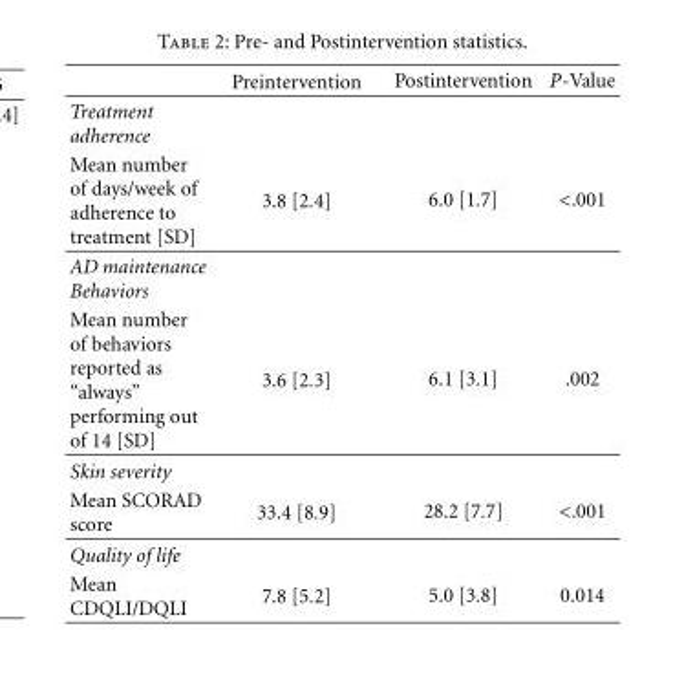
<table><thead><tr><td></td><td>Preintervention</td><td>Postintervention</td><td>P-Value</td></tr></thead><tbody><tr><td colspan="4">Treatment adherence</td></tr><tr><td>Mean number of days/week of adherence to treatment [SD]</td><td>3.8 [2.4]</td><td>6.0 [1.7]</td><td>&lt;.001</td></tr><tr><td colspan="4">AD maintenance Behaviors</td></tr><tr><td>Mean number of behaviors reported as “always” performing out of 14 [SD]</td><td>3.6 [2.3]</td><td>6.1 [3.1]</td><td>.002</td></tr><tr><td colspan="4">Skin severity</td></tr><tr><td>Mean SCORAD score</td><td>33.4 [8.9]</td><td>28.2 [7.7]</td><td>&lt;.001</td></tr><tr><td colspan="4">Quality of life</td></tr><tr><td>Mean CDQLI/DQLI</td><td>7.8 [5.2]</td><td>5.0 [3.8]</td><td>0.014</td></tr></tbody></table>